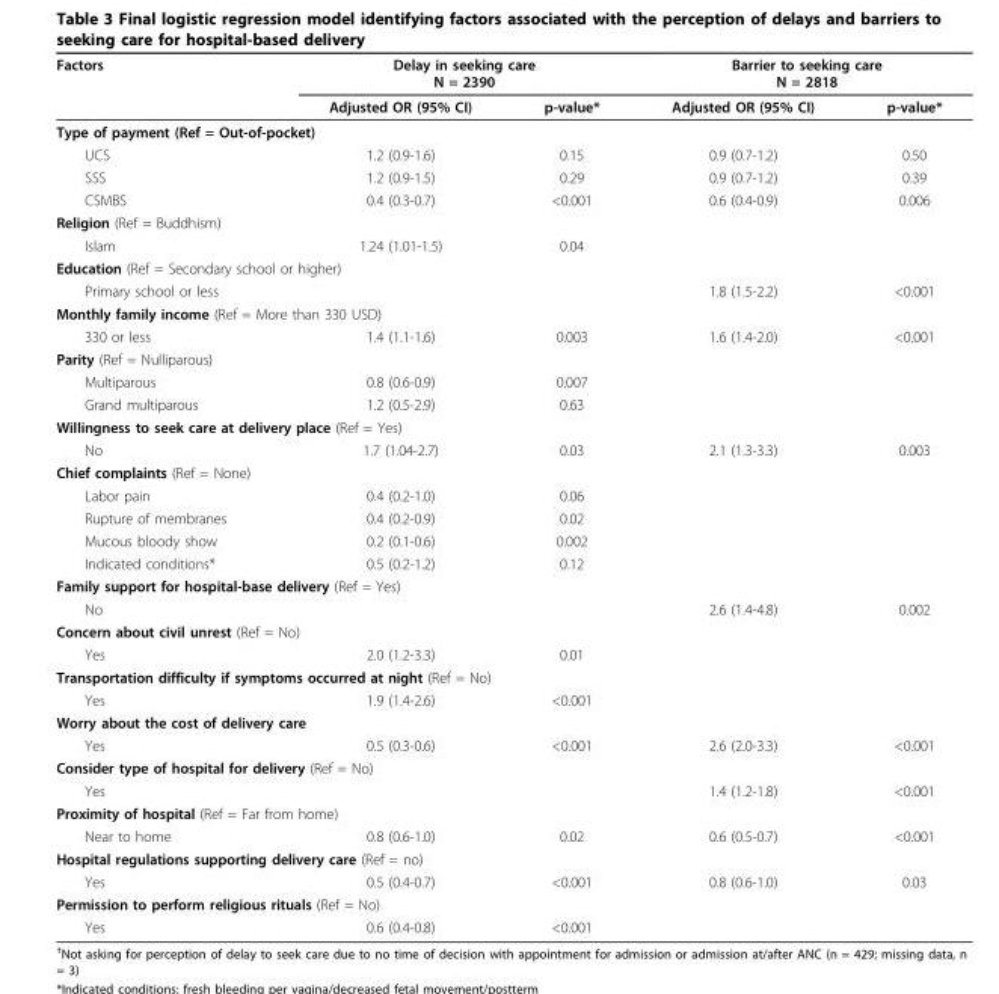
<table><thead><tr><td rowspan="2">Factors</td><td colspan="2">Delay in seeking care N = 2390</td><td colspan="2">Barrier to seeking care N = 2818</td></tr><tr><td>Adjusted OR (95% CI)</td><td>p-value*</td><td>Adjusted OR (95% CI)</td><td>p-value*</td></tr></thead><tbody><tr><td colspan="5">Type of payment (Ref = Out-of-pocket)</td></tr><tr><td>UCS</td><td>1.2 (0.9-1.6)</td><td>0.15</td><td>0.9 (0.7-1.2)</td><td>0.50</td></tr><tr><td>SSS</td><td>1.2 (0.9-1.5)</td><td>0.29</td><td>0.9 (0.7-1.2)</td><td>0.39</td></tr><tr><td>CSMBS</td><td>0.4 (0.3-0.7)</td><td>&lt;0.001</td><td>0.6 (0.4-0.9)</td><td>0.006</td></tr><tr><td colspan="5">Religion (Ref = Buddhism)</td></tr><tr><td>Islam</td><td>1.24 (1.01-1.5)</td><td>0.04</td><td></td><td></td></tr><tr><td colspan="5">Education (Ref = Secondary school or higher)</td></tr><tr><td>Primary school or less</td><td></td><td></td><td>1.8 (1.5-2.2)</td><td>&lt;0.001</td></tr><tr><td colspan="5">Monthly family income (Ref = More than 330 USD)</td></tr><tr><td>330 or less</td><td>1.4 (1.1-1.6)</td><td>0.003</td><td>1.6 (1.4-2.0)</td><td>&lt;0.001</td></tr><tr><td colspan="5">Parity (Ref = Nulliparous)</td></tr><tr><td>Multiparous</td><td>0.8 (0.6-0.9)</td><td>0.007</td><td></td><td></td></tr><tr><td>Grand multiparous</td><td>1.2 (0.5-2.9)</td><td>0.63</td><td></td><td></td></tr><tr><td colspan="5">Willingness to seek care at delivery place (Ref = Yes)</td></tr><tr><td>No</td><td>1.7 (1.04-2.7)</td><td>0.03</td><td>2.1 (1.3-3.3)</td><td>0.003</td></tr><tr><td colspan="5">Chief complaints (Ref = None)</td></tr><tr><td>Labor pain</td><td>0.4 (0.2-1.0)</td><td>0.06</td><td></td><td></td></tr><tr><td>Rupture of membranes</td><td>0.4 (0.2-0.9)</td><td>0.02</td><td></td><td></td></tr><tr><td>Mucous bloody show</td><td>0.2 (0.1-0.6)</td><td>0.002</td><td></td><td></td></tr><tr><td>Indicated conditions*</td><td>0.5 (0.2-1.2)</td><td>0.12</td><td></td><td></td></tr><tr><td colspan="5">Family support for hospital-base delivery (Ref = Yes)</td></tr><tr><td>No</td><td></td><td></td><td>2.6 (1.4-4.8)</td><td>0.002</td></tr><tr><td colspan="5">Concern about civil unrest (Ref = No)</td></tr><tr><td>Yes</td><td>2.0 (1.2-3.3)</td><td>0.01</td><td></td><td></td></tr><tr><td colspan="5">Transportation difficulty if symptoms occurred at night (Ref = No)</td></tr><tr><td>Yes</td><td>1.9 (1.4-2.6)</td><td>&lt;0.001</td><td></td><td></td></tr><tr><td colspan="5">Worry about the cost of delivery care</td></tr><tr><td>Yes</td><td>0.5 (0.3-0.6)</td><td>&lt;0.001</td><td>2.6 (2.0-3.3)</td><td>&lt;0.001</td></tr><tr><td colspan="5">Consider type of hospital for delivery (Ref = No)</td></tr><tr><td>Yes</td><td></td><td></td><td>1.4 (1.2-1.8)</td><td>&lt;0.001</td></tr><tr><td colspan="5">Proximity of hospital (Ref = Far from home)</td></tr><tr><td>Near to home</td><td>0.8 (0.6-1.0)</td><td>0.02</td><td>0.6 (0.5-0.7)</td><td>&lt;0.001</td></tr><tr><td colspan="5">Hospital regulations supporting delivery care (Ref = no)</td></tr><tr><td>Yes</td><td>0.5 (0.4-0.7)</td><td>&lt;0.001</td><td>0.8 (0.6-1.0)</td><td>0.03</td></tr><tr><td colspan="5">Permission to perform religious rituals (Ref = No)</td></tr><tr><td>Yes</td><td>0.6 (0.4-0.8)</td><td>&lt;0.001</td><td></td><td></td></tr></tbody></table>